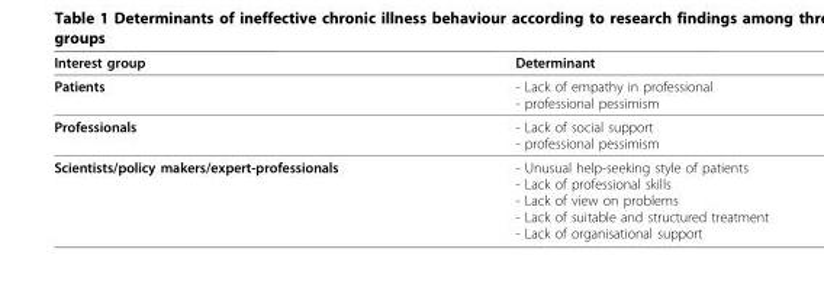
<table><thead><tr><td>Interest group</td><td>Determinant</td></tr></thead><tbody><tr><td>Patients</td><td>- Lack of empathy in professional - professional pessimism</td></tr><tr><td>Professionals</td><td>- Lack of social support - professional pessimism</td></tr><tr><td>Scientists/policy makers/expert-professionals</td><td>- Unusual help-seeking style of patients - Lack of professional skills - Lack of view on problems - Lack of suitable and structured treatment - Lack of organisational support</td></tr></tbody></table>